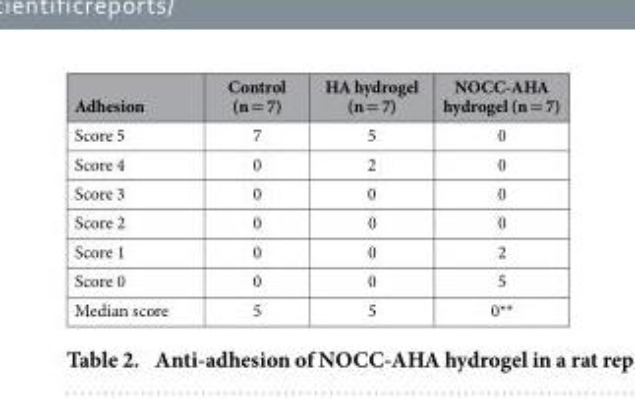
<table><thead><tr><td>Adhesion</td><td>Control (n = 7)</td><td>HA hydrogel (n = 7)</td><td>NOCC-AHA hydrogel (n = 7)</td></tr></thead><tbody><tr><td>Score 5</td><td>7</td><td>5</td><td>0</td></tr><tr><td>Score 4</td><td>0</td><td>2</td><td>0</td></tr><tr><td>Score 3</td><td>0</td><td>0</td><td>0</td></tr><tr><td>Score 2</td><td>0</td><td>0</td><td>0</td></tr><tr><td>Score 1</td><td>0</td><td>0</td><td>2</td></tr><tr><td>Score 0</td><td>0</td><td>0</td><td>5</td></tr><tr><td>Median score</td><td>5</td><td>5</td><td>0**</td></tr></tbody></table>